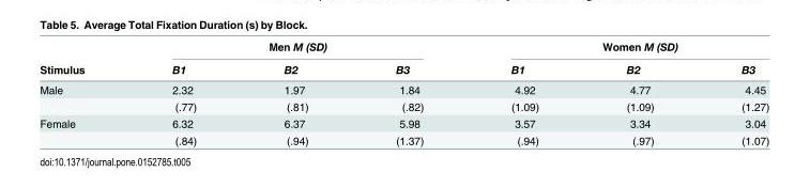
<table><thead><tr><td rowspan="2">Stimulus</td><td colspan="3">Men M (SD)</td><td colspan="3">Women M (SD)</td></tr><tr><td>B1</td><td>B2</td><td>B3</td><td>B1</td><td>B2</td><td>B3</td></tr></thead><tbody><tr><td rowspan="2">Male</td><td>2.32</td><td>1.97</td><td>1.84</td><td>4.92</td><td>4.77</td><td>4.45</td></tr><tr><td>(.77)</td><td>(.81)</td><td>(.82)</td><td>(1.09)</td><td>(1.09)</td><td>(1.27)</td></tr><tr><td rowspan="2">Female</td><td>6.32</td><td>6.37</td><td>5.98</td><td>3.57</td><td>3.34</td><td>3.04</td></tr><tr><td>(.84)</td><td>(.94)</td><td>(1.37)</td><td>(.94)</td><td>(.97)</td><td>(1.07)</td></tr></tbody></table>